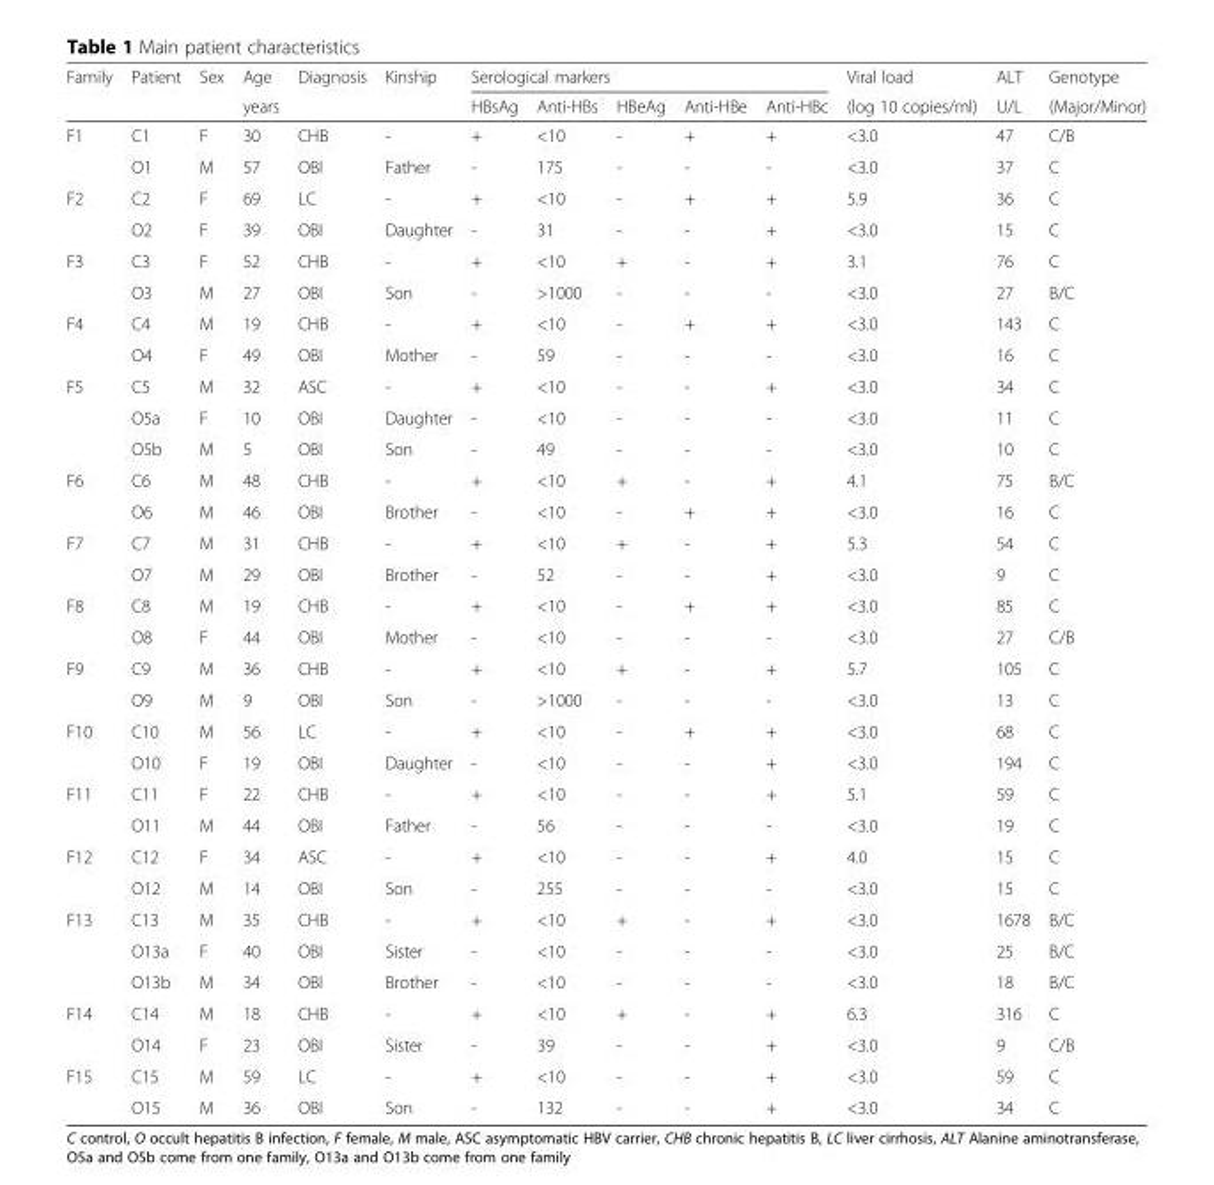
<table><thead><tr><td rowspan="2">Family</td><td rowspan="2">Patient</td><td rowspan="2">Sex</td><td rowspan="2">Age years</td><td rowspan="2">Diagnosis</td><td rowspan="2">Kinship</td><td colspan="5">Serological markers</td><td rowspan="2">Viral load (log 10 copies/ml)</td><td rowspan="2">ALT U/L</td><td rowspan="2">Genotype (Major/Minor)</td></tr><tr><td>HBsAg</td><td>Anti-HBs</td><td>HBeAg</td><td>Anti-HBe</td><td>Anti-HBc</td></tr></thead><tbody><tr><td rowspan="2">F1</td><td>C1</td><td>F</td><td>30</td><td>CHB</td><td>-</td><td>+</td><td>&lt;10</td><td>-</td><td>+</td><td>+</td><td>&lt;3.0</td><td>47</td><td>C/B</td></tr><tr><td>O1</td><td>M</td><td>57</td><td>OBI</td><td>Father</td><td>-</td><td>175</td><td>-</td><td>-</td><td>-</td><td>&lt;3.0</td><td>37</td><td>C</td></tr><tr><td rowspan="2">F2</td><td>C2</td><td>F</td><td>69</td><td>LC</td><td>-</td><td>+</td><td>&lt;10</td><td>-</td><td>+</td><td>+</td><td>5.9</td><td>36</td><td>C</td></tr><tr><td>O2</td><td>F</td><td>39</td><td>OBI</td><td>Daughter</td><td>-</td><td>31</td><td>-</td><td>-</td><td>+</td><td>&lt;3.0</td><td>15</td><td>C</td></tr><tr><td rowspan="2">F3</td><td>C3</td><td>F</td><td>52</td><td>CHB</td><td>-</td><td>+</td><td>&lt;10</td><td>+</td><td>-</td><td>+</td><td>3.1</td><td>76</td><td>C</td></tr><tr><td>O3</td><td>M</td><td>27</td><td>OBI</td><td>Son</td><td>-</td><td>&gt;1000</td><td>-</td><td>-</td><td>-</td><td>&lt;3.0</td><td>27</td><td>B/C</td></tr><tr><td rowspan="2">F4</td><td>C4</td><td>M</td><td>19</td><td>CHB</td><td>-</td><td>+</td><td>&lt;10</td><td>-</td><td>+</td><td>+</td><td>&lt;3.0</td><td>143</td><td>C</td></tr><tr><td>O4</td><td>F</td><td>49</td><td>OBI</td><td>Mother</td><td>-</td><td>59</td><td>-</td><td>-</td><td>-</td><td>&lt;3.0</td><td>16</td><td>C</td></tr><tr><td rowspan="3">F5</td><td>C5</td><td>M</td><td>32</td><td>ASC</td><td>-</td><td>+</td><td>&lt;10</td><td>-</td><td>-</td><td>+</td><td>&lt;3.0</td><td>34</td><td>C</td></tr><tr><td>O5a</td><td>F</td><td>10</td><td>OBI</td><td>Daughter</td><td>-</td><td>&lt;10</td><td>-</td><td>-</td><td>-</td><td>&lt;3.0</td><td>11</td><td>C</td></tr><tr><td>O5b</td><td>M</td><td>5</td><td>OBI</td><td>Son</td><td>-</td><td>49</td><td>-</td><td>-</td><td>-</td><td>&lt;3.0</td><td>10</td><td>C</td></tr><tr><td rowspan="2">F6</td><td>C6</td><td>M</td><td>48</td><td>CHB</td><td>-</td><td>+</td><td>&lt;10</td><td>+</td><td>-</td><td>+</td><td>4.1</td><td>75</td><td>B/C</td></tr><tr><td>O6</td><td>M</td><td>46</td><td>OBI</td><td>Brother</td><td>-</td><td>&lt;10</td><td>-</td><td>+</td><td>+</td><td>&lt;3.0</td><td>16</td><td>C</td></tr><tr><td rowspan="2">F7</td><td>C7</td><td>M</td><td>31</td><td>CHB</td><td>-</td><td>+</td><td>&lt;10</td><td>+</td><td>-</td><td>+</td><td>5.3</td><td>54</td><td>C</td></tr><tr><td>O7</td><td>M</td><td>29</td><td>OBI</td><td>Brother</td><td>-</td><td>52</td><td>-</td><td>-</td><td>+</td><td>&lt;3.0</td><td>9</td><td>C</td></tr><tr><td rowspan="2">F8</td><td>C8</td><td>M</td><td>19</td><td>CHB</td><td>-</td><td>+</td><td>&lt;10</td><td>-</td><td>+</td><td>+</td><td>&lt;3.0</td><td>85</td><td>C</td></tr><tr><td>O8</td><td>F</td><td>44</td><td>OBI</td><td>Mother</td><td>-</td><td>&lt;10</td><td>-</td><td>-</td><td>-</td><td>&lt;3.0</td><td>27</td><td>C/B</td></tr><tr><td rowspan="2">F9</td><td>C9</td><td>M</td><td>36</td><td>CHB</td><td>-</td><td>+</td><td>&lt;10</td><td>+</td><td>-</td><td>+</td><td>5.7</td><td>105</td><td>C</td></tr><tr><td>O9</td><td>M</td><td>9</td><td>OBI</td><td>Son</td><td>-</td><td>&gt;1000</td><td>-</td><td>-</td><td>-</td><td>&lt;3.0</td><td>13</td><td>C</td></tr><tr><td rowspan="2">F10</td><td>C10</td><td>M</td><td>56</td><td>LC</td><td>-</td><td>+</td><td>&lt;10</td><td>-</td><td>+</td><td>+</td><td>&lt;3.0</td><td>68</td><td>C</td></tr><tr><td>O10</td><td>F</td><td>19</td><td>OBI</td><td>Daughter</td><td>-</td><td>&lt;10</td><td>-</td><td>-</td><td>+</td><td>&lt;3.0</td><td>194</td><td>C</td></tr><tr><td rowspan="2">F11</td><td>C11</td><td>F</td><td>22</td><td>CHB</td><td>-</td><td>+</td><td>&lt;10</td><td>-</td><td>-</td><td>+</td><td>5.1</td><td>59</td><td>C</td></tr><tr><td>O11</td><td>M</td><td>44</td><td>OBI</td><td>Father</td><td>-</td><td>56</td><td>-</td><td>-</td><td>-</td><td>&lt;3.0</td><td>19</td><td>C</td></tr><tr><td rowspan="2">F12</td><td>C12</td><td>F</td><td>34</td><td>ASC</td><td>-</td><td>+</td><td>&lt;10</td><td>-</td><td>-</td><td>+</td><td>4.0</td><td>15</td><td>C</td></tr><tr><td>O12</td><td>M</td><td>14</td><td>OBI</td><td>Son</td><td>-</td><td>255</td><td>-</td><td>-</td><td>-</td><td>&lt;3.0</td><td>15</td><td>C</td></tr><tr><td rowspan="3">F13</td><td>C13</td><td>M</td><td>35</td><td>CHB</td><td>-</td><td>+</td><td>&lt;10</td><td>+</td><td>-</td><td>+</td><td>&lt;3.0</td><td>1678</td><td>B/C</td></tr><tr><td>O13a</td><td>F</td><td>40</td><td>OBI</td><td>Sister</td><td>-</td><td>&lt;10</td><td>-</td><td>-</td><td>-</td><td>&lt;3.0</td><td>25</td><td>B/C</td></tr><tr><td>O13b</td><td>M</td><td>34</td><td>OBI</td><td>Brother</td><td>-</td><td>&lt;10</td><td>-</td><td>-</td><td>-</td><td>&lt;3.0</td><td>18</td><td>B/C</td></tr><tr><td rowspan="2">F14</td><td>C14</td><td>M</td><td>18</td><td>CHB</td><td>-</td><td>+</td><td>&lt;10</td><td>+</td><td>-</td><td>+</td><td>6.3</td><td>316</td><td>C</td></tr><tr><td>O14</td><td>F</td><td>23</td><td>OBI</td><td>Sister</td><td>-</td><td>39</td><td>-</td><td>-</td><td>+</td><td>&lt;3.0</td><td>9</td><td>C/B</td></tr><tr><td rowspan="2">F15</td><td>C15</td><td>M</td><td>59</td><td>LC</td><td>-</td><td>+</td><td>&lt;10</td><td>-</td><td>-</td><td>+</td><td>&lt;3.0</td><td>59</td><td>C</td></tr><tr><td>O15</td><td>M</td><td>36</td><td>OBI</td><td>Son</td><td>-</td><td>132</td><td>-</td><td>-</td><td>+</td><td>&lt;3.0</td><td>34</td><td>C</td></tr></tbody></table>